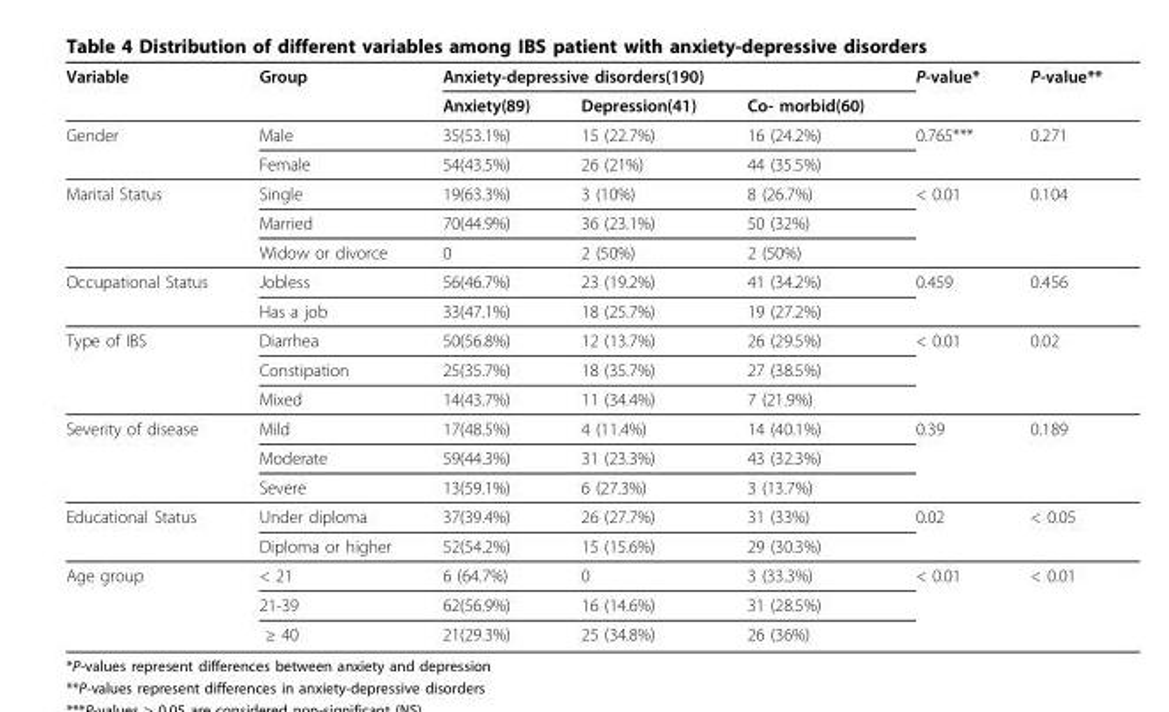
<table><thead><tr><td rowspan="2">Variable</td><td rowspan="2">Group</td><td colspan="3">Anxiety-depressive disorders(190)</td><td rowspan="2">P-value*</td><td rowspan="2">P-value**</td></tr><tr><td>Anxiety(89)</td><td>Depression(41)</td><td>Co- morbid(60)</td></tr></thead><tbody><tr><td rowspan="2">Gender</td><td>Male</td><td>35(53.1%)</td><td>15 (22.7%)</td><td>16 (24.2%)</td><td>0.765***</td><td>0.271</td></tr><tr><td>Female</td><td>54(43.5%)</td><td>26 (21%)</td><td>44 (35.5%)</td><td></td><td></td></tr><tr><td rowspan="3">Marital Status</td><td>Single</td><td>19(63.3%)</td><td>3 (10%)</td><td>8 (26.7%)</td><td>&lt; 0.01</td><td>0.104</td></tr><tr><td>Married</td><td>70(44.9%)</td><td>36 (23.1%)</td><td>50 (32%)</td><td></td><td></td></tr><tr><td>Widow or divorce</td><td>0</td><td>2 (50%)</td><td>2 (50%)</td><td></td><td></td></tr><tr><td rowspan="2">Occupational Status</td><td>Jobless</td><td>56(46.7%)</td><td>23 (19.2%)</td><td>41 (34.2%)</td><td>0.459</td><td>0.456</td></tr><tr><td>Has a job</td><td>33(47.1%)</td><td>18 (25.7%)</td><td>19 (27.2%)</td><td></td><td></td></tr><tr><td rowspan="3">Type of IBS</td><td>Diarrhea</td><td>50(56.8%)</td><td>12 (13.7%)</td><td>26 (29.5%)</td><td>&lt; 0.01</td><td>0.02</td></tr><tr><td>Constipation</td><td>25(35.7%)</td><td>18 (35.7%)</td><td>27 (38.5%)</td><td></td><td></td></tr><tr><td>Mixed</td><td>14(43.7%)</td><td>11 (34.4%)</td><td>7 (21.9%)</td><td></td><td></td></tr><tr><td rowspan="3">Severity of disease</td><td>Mild</td><td>17(48.5%)</td><td>4 (11.4%)</td><td>14 (40.1%)</td><td>0.39</td><td>0.189</td></tr><tr><td>Moderate</td><td>59(44.3%)</td><td>31 (23.3%)</td><td>43 (32.3%)</td><td></td><td></td></tr><tr><td>Severe</td><td>13(59.1%)</td><td>6 (27.3%)</td><td>3 (13.7%)</td><td></td><td></td></tr><tr><td rowspan="2">Educational Status</td><td>Under diploma</td><td>37(39.4%)</td><td>26 (27.7%)</td><td>31 (33%)</td><td>0.02</td><td>&lt; 0.05</td></tr><tr><td>Diploma or higher</td><td>52(54.2%)</td><td>15 (15.6%)</td><td>29 (30.3%)</td><td></td><td></td></tr><tr><td rowspan="3">Age group</td><td>&lt; 21</td><td>6 (64.7%)</td><td>0</td><td>3 (33.3%)</td><td>&lt; 0.01</td><td>&lt; 0.01</td></tr><tr><td>21-39</td><td>62(56.9%)</td><td>16 (14.6%)</td><td>31 (28.5%)</td><td></td><td></td></tr><tr><td>≥ 40</td><td>21(29.3%)</td><td>25 (34.8%)</td><td>26 (36%)</td><td></td><td></td></tr></tbody></table>